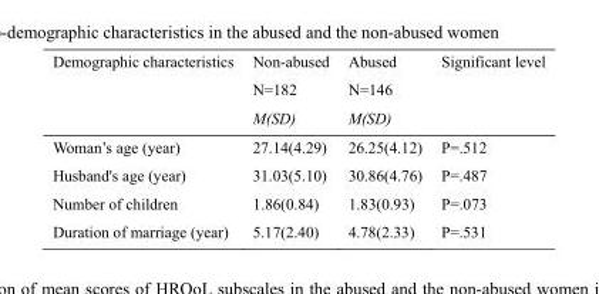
<table><thead><tr><td rowspan="2">Demographic characteristics</td><td rowspan="2">Non-abused N=182 M(SD)</td><td rowspan="2">Abused N=146 M(SD)</td><td rowspan="2">Significant level</td></tr><tr></tr></thead><tbody><tr><td>Woman’s age (year)</td><td>27.14(4.29)</td><td>26.25(4.12)</td><td>P=.512</td></tr><tr><td>Husband&#x27;s age (year)</td><td>31.03(5.10)</td><td>30.86(4.76)</td><td>P=.487</td></tr><tr><td>Number of children</td><td>1.86(0.84)</td><td>1.83(0.93)</td><td>P=.073</td></tr><tr><td>Duration of marriage (year)</td><td>5.17(2.40)</td><td>4.78(2.33)</td><td>P=.531</td></tr></tbody></table>